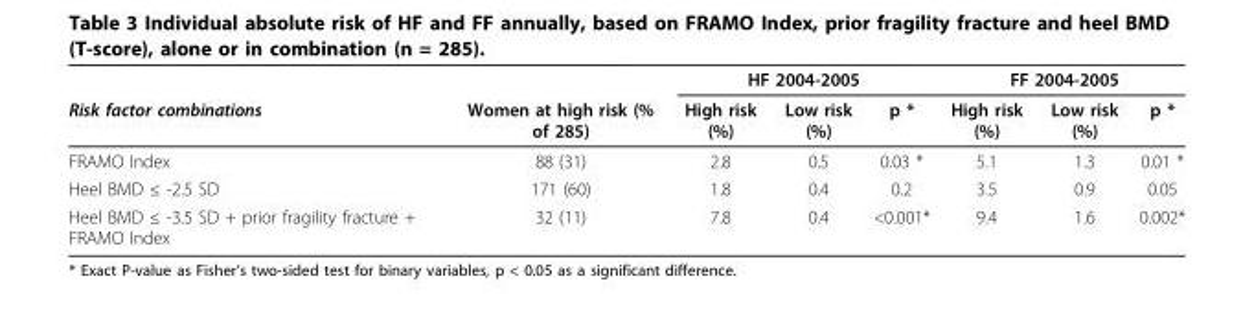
<table><thead><tr><td rowspan="2">Risk factor combinations</td><td rowspan="2">Women at high risk (% of 285)</td><td colspan="3">HF 2004-2005</td><td colspan="3">FF 2004-2005</td></tr><tr><td>High risk (%)</td><td>Low risk (%)</td><td>p *</td><td>High risk (%)</td><td>Low risk (%)</td><td>p *</td></tr></thead><tbody><tr><td>FRAMO Index</td><td>88 (31)</td><td>2.8</td><td>0.5</td><td>0.03 *</td><td>5.1</td><td>1.3</td><td>0.01 *</td></tr><tr><td>Heel BMD ≤ -2.5 SD</td><td>171 (60)</td><td>1.8</td><td>0.4</td><td>0.2</td><td>3.5</td><td>0.9</td><td>0.05</td></tr><tr><td>Heel BMD ≤ -3.5 SD + prior fragility fracture + FRAMO Index</td><td>32 (11)</td><td>7.8</td><td>0.4</td><td>&lt;0.001*</td><td>9.4</td><td>1.6</td><td>0.002*</td></tr></tbody></table>